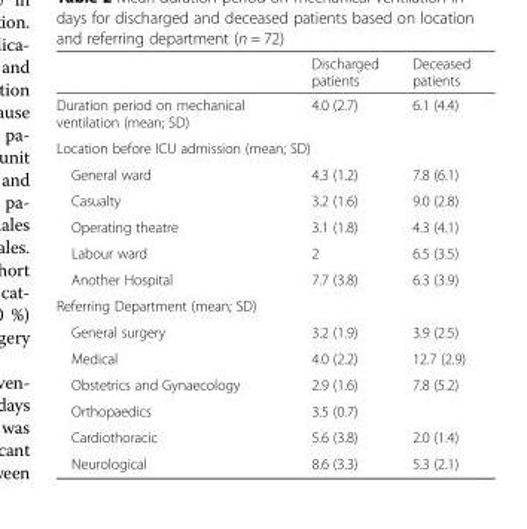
<table><thead><tr><td></td><td>Discharged patients</td><td>Deceased patients</td></tr></thead><tbody><tr><td>Duration period on mechanical ventilation (mean; SD)</td><td>4.0 (2.7)</td><td>6.1 (4.4)</td></tr><tr><td colspan="3">Location before ICU admission (mean; SD)</td></tr><tr><td>General ward</td><td>4.3 (1.2)</td><td>7.8 (6.1)</td></tr><tr><td>Casualty</td><td>3.2 (1.6)</td><td>9.0 (2.8)</td></tr><tr><td>Operating theatre</td><td>3.1 (1.8)</td><td>4.3 (4.1)</td></tr><tr><td>Labour ward</td><td>2</td><td>6.5 (3.5)</td></tr><tr><td>Another Hospital</td><td>7.7 (3.8)</td><td>6.3 (3.9)</td></tr><tr><td colspan="3">Referring Department (mean; SD)</td></tr><tr><td>General surgery</td><td>3.2 (1.9)</td><td>3.9 (2.5)</td></tr><tr><td>Medical</td><td>4.0 (2.2)</td><td>12.7 (2.9)</td></tr><tr><td>Obstetrics and Gynaecology</td><td>2.9 (1.6)</td><td>7.8 (5.2)</td></tr><tr><td>Orthopaedics</td><td>3.5 (0.7)</td><td></td></tr><tr><td>Cardiothoracic</td><td>5.6 (3.8)</td><td>2.0 (1.4)</td></tr><tr><td>Neurological</td><td>8.6 (3.3)</td><td>5.3 (2.1)</td></tr></tbody></table>